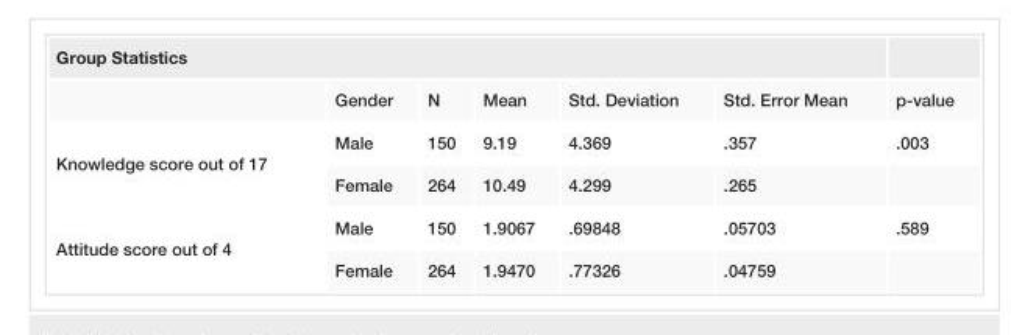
<table><tbody><tr><td colspan="7">Group Statistics</td></tr><tr><td></td><td>Gender</td><td>N</td><td>Mean</td><td>Std. Deviation</td><td>Std. Error Mean</td><td>p-value</td></tr><tr><td rowspan="2">Knowledge score out of 17</td><td>Male</td><td>150</td><td>9.19</td><td>4.369</td><td>.357</td><td>.003</td></tr><tr><td>Female</td><td>264</td><td>10.49</td><td>4.299</td><td>.265</td><td></td></tr><tr><td rowspan="2">Attitude score out of 4</td><td>Male</td><td>150</td><td>1.9067</td><td>.69848</td><td>.05703</td><td>.589</td></tr><tr><td>Female</td><td>264</td><td>1.9470</td><td>.77326</td><td>.04759</td><td></td></tr></tbody></table>